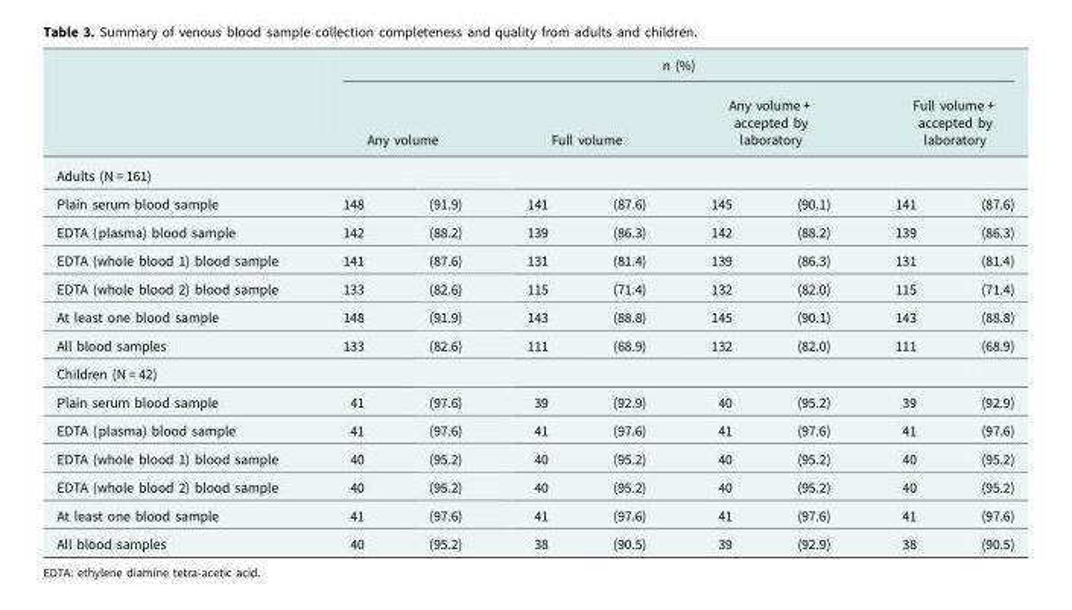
<table><thead><tr><td rowspan="3">Adults (N = 161)</td><td colspan="8">n (%)</td></tr><tr><td colspan="2">Any volume</td><td colspan="2">Full volume</td><td colspan="2">Any volume + accepted by laboratory</td><td colspan="2">Full volume + accepted by laboratory</td></tr><tr><td></td><td></td><td></td><td></td><td></td><td></td><td></td><td></td></tr></thead><tbody><tr><td>Plain serum blood sample</td><td>148</td><td>(91.9)</td><td>141</td><td>(87.6)</td><td>145</td><td>(90.1)</td><td>141</td><td>(87.6)</td></tr><tr><td>EDTA (plasma) blood sample</td><td>142</td><td>(88.2)</td><td>139</td><td>(86.3)</td><td>142</td><td>(88.2)</td><td>139</td><td>(86.3)</td></tr><tr><td>EDTA (whole blood 1) blood sample</td><td>141</td><td>(87.6)</td><td>131</td><td>(81.4)</td><td>139</td><td>(86.3)</td><td>131</td><td>(81.4)</td></tr><tr><td>EDTA (whole blood 2) blood sample</td><td>133</td><td>(82.6)</td><td>115</td><td>(71.4)</td><td>132</td><td>(82.0)</td><td>115</td><td>(71.4)</td></tr><tr><td>At least one blood sample</td><td>148</td><td>(91.9)</td><td>143</td><td>(88.8)</td><td>145</td><td>(90.1)</td><td>143</td><td>(88.8)</td></tr><tr><td>All blood samples</td><td>133</td><td>(82.6)</td><td>111</td><td>(68.9)</td><td>132</td><td>(82.0)</td><td>111</td><td>(68.9)</td></tr><tr><td colspan="9">Children (N = 42)</td></tr><tr><td>Plain serum blood sample</td><td>41</td><td>(97.6)</td><td>39</td><td>(92.9)</td><td>40</td><td>(95.2)</td><td>39</td><td>(92.9)</td></tr><tr><td>EDTA (plasma) blood sample</td><td>41</td><td>(97.6)</td><td>41</td><td>(97.6)</td><td>41</td><td>(97.6)</td><td>41</td><td>(97.6)</td></tr><tr><td>EDTA (whole blood 1) blood sample</td><td>40</td><td>(95.2)</td><td>40</td><td>(95.2)</td><td>40</td><td>(95.2)</td><td>40</td><td>(95.2)</td></tr><tr><td>EDTA (whole blood 2) blood sample</td><td>40</td><td>(95.2)</td><td>40</td><td>(95.2)</td><td>40</td><td>(95.2)</td><td>40</td><td>(95.2)</td></tr><tr><td>At least one blood sample</td><td>41</td><td>(97.6)</td><td>41</td><td>(97.6)</td><td>41</td><td>(97.6)</td><td>41</td><td>(97.6)</td></tr><tr><td>All blood samples</td><td>40</td><td>(95.2)</td><td>38</td><td>(90.5)</td><td>39</td><td>(92.9)</td><td>38</td><td>(90.5)</td></tr></tbody></table>